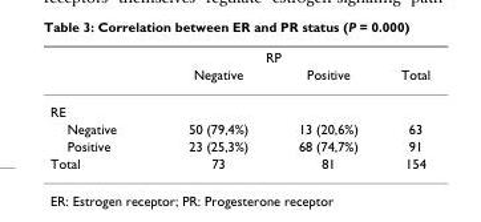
<table><thead><tr><td rowspan="2"></td><td colspan="2">RP</td><td rowspan="2">Total</td></tr><tr><td>Negative</td><td>Positive</td></tr></thead><tbody><tr><td colspan="4">RE</td></tr><tr><td>Negative</td><td>50 (79,4%)</td><td>13 (20,6%)</td><td>63</td></tr><tr><td>Positive</td><td>23 (25,3%)</td><td>68 (74,7%)</td><td>91</td></tr><tr><td>Total</td><td>73</td><td>81</td><td>154</td></tr></tbody></table>